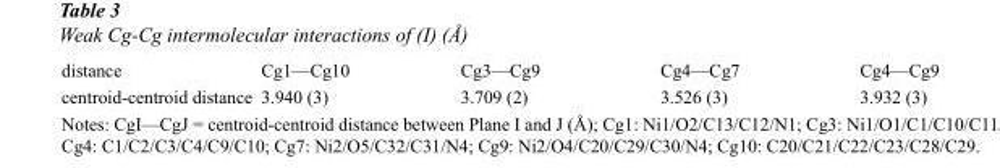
<table><tbody><tr><td>distance</td><td>Cg1—Cg10</td><td>Cg3—Cg9</td><td>Cg4—Cg7</td><td>Cg4—Cg9</td></tr><tr><td>centroid-centroid distance</td><td>3.940 (3)</td><td>3.709 (2)</td><td>3.526 (3)</td><td>3.932 (3)</td></tr></tbody></table>